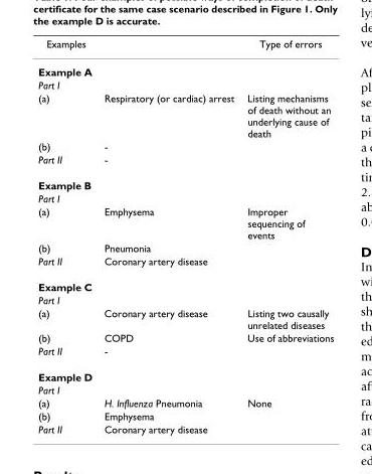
<table><thead><tr><td>Examples</td><td></td><td>Type of errors</td></tr></thead><tbody><tr><td colspan="3">Example A</td></tr><tr><td colspan="3">Part I</td></tr><tr><td>(a)</td><td>Respiratory (or cardiac) arrest</td><td>Listing mechanisms of death without an underlying cause of death</td></tr><tr><td>(b)</td><td>-</td><td></td></tr><tr><td>Part II</td><td>-</td><td></td></tr><tr><td colspan="3">Example B</td></tr><tr><td colspan="3">Part I</td></tr><tr><td>(a)</td><td>Emphysema</td><td>Improper sequencing of events</td></tr><tr><td>(b)</td><td>Pneumonia</td><td></td></tr><tr><td>Part II</td><td>Coronary artery disease</td><td></td></tr><tr><td colspan="3">Example C</td></tr><tr><td colspan="3">Part I</td></tr><tr><td>(a)</td><td>Coronary artery disease</td><td>Listing two causally unrelated diseases</td></tr><tr><td>(b)</td><td>COPD</td><td>Use of abbreviations</td></tr><tr><td>Part II</td><td>-</td><td></td></tr><tr><td colspan="3">Example D</td></tr><tr><td colspan="3">Part I</td></tr><tr><td>(a)</td><td>H. Influenza Pneumonia</td><td>None</td></tr><tr><td>(b)</td><td>Emphysema</td><td></td></tr><tr><td>Part II</td><td>Coronary artery disease</td><td></td></tr></tbody></table>